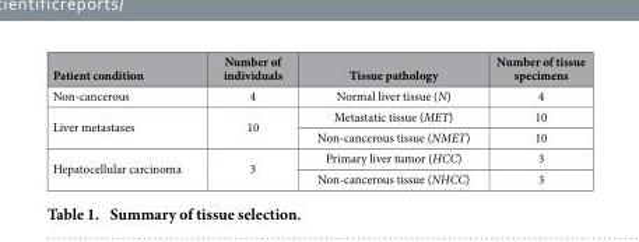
<table><thead><tr><td>Patient condition</td><td>Number of individuals</td><td>Tissue pathology</td><td>Number of tissue specimens</td></tr></thead><tbody><tr><td>Non-cancerous</td><td>4</td><td>Normal liver tissue (N)</td><td>4</td></tr><tr><td rowspan="2">Liver metastases</td><td rowspan="2">10</td><td>Metastatic tissue (MET)</td><td>10</td></tr><tr><td>Non-cancerous tissue (NMET)</td><td>10</td></tr><tr><td rowspan="2">Hepatocellular carcinoma</td><td rowspan="2">3</td><td>Primary liver tumor (HCC)</td><td>3</td></tr><tr><td>Non-cancerous tissue (NHCC)</td><td>3</td></tr></tbody></table>